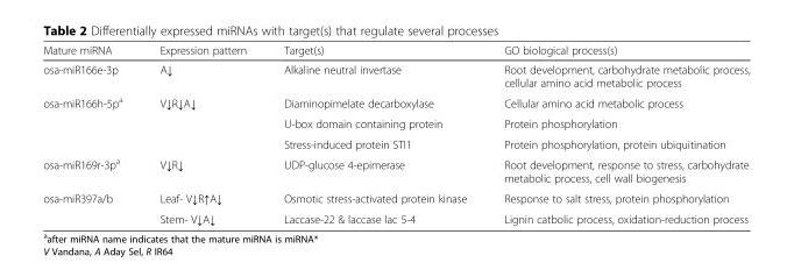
<table><thead><tr><td>Mature miRNA</td><td>Expression pattern</td><td>Target(s)</td><td>GO biological process(s)</td></tr></thead><tbody><tr><td>osa-miR166e-3p</td><td>A↓</td><td>Alkaline neutral invertase</td><td>Root development, carbohydrate metabolic process, cellular amino acid metabolic process</td></tr><tr><td rowspan="3">osa-miR166h-5p<sup>a</sup></td><td rowspan="3">V↓R↓A↓</td><td>Diaminopimelate decarboxylase</td><td>Cellular amino acid metabolic process</td></tr><tr><td>U-box domain containing protein</td><td>Protein phosphorylation</td></tr><tr><td>Stress-induced protein STI1</td><td>Protein phosphorylation, protein ubiquitination</td></tr><tr><td>osa-miR169r-3p<sup>a</sup></td><td>V↓R↓</td><td>UDP-glucose 4-epimerase</td><td>Root development, response to stress, carbohydrate metabolic process, cell wall biogenesis</td></tr><tr><td rowspan="2">osa-miR397a/b</td><td>Leaf- V↓R↑A↓</td><td>Osmotic stress-activated protein kinase</td><td>Response to salt stress, protein phosphorylation</td></tr><tr><td>Stem- V↓A↓</td><td>Laccase-22 &amp; laccase lac 5-4</td><td>Lignin catbolic process, oxidation-reduction process</td></tr></tbody></table>